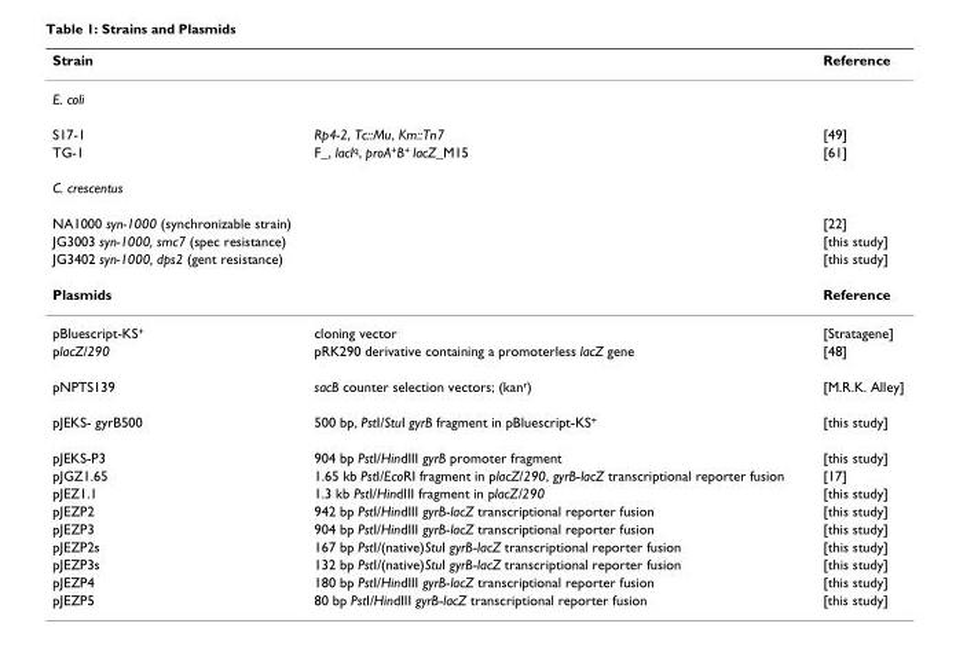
<table><thead><tr><td>Strain</td><td></td><td>Reference</td></tr></thead><tbody><tr><td colspan="3">E. coli</td></tr><tr><td>S17-1</td><td>Rp4-2, Tc::Mu, Km::Tn7</td><td>[49]</td></tr><tr><td>TG-1</td><td>F_, lacIq, proA+B+ lacZ_M15</td><td>[61]</td></tr><tr><td colspan="3">C. crescentus</td></tr><tr><td>NA1000 syn-1000 (synchronizable strain)</td><td></td><td>[22]</td></tr><tr><td>JG3003 syn-1000, smc7 (spec resistance)</td><td></td><td>[this study]</td></tr><tr><td>JG3402 syn-1000, dps2 (gent resistance)</td><td></td><td>[this study]</td></tr><tr><td>Plasmids</td><td></td><td>Reference</td></tr><tr><td>pBluescript-KS+</td><td>cloning vector</td><td>[Stratagene]</td></tr><tr><td>placZ/290</td><td>pRK290 derivative containing a promoterless lacZ gene</td><td>[48]</td></tr><tr><td>pNPTS139</td><td>sacB counter selection vectors; (kanr)</td><td>[M.R.K. Alley]</td></tr><tr><td>pJEKS- gyrB500</td><td>500 bp, PstI/StuI gyrB fragment in pBluescript-KS+</td><td>[this study]</td></tr><tr><td>pJEKS-P3</td><td>904 bp PstI/HindIII gyrB promoter fragment</td><td>[this study]</td></tr><tr><td>pJGZ1.65</td><td>1.65 kb PstI/EcoRI fragment in placZ/290, gyrB-lacZ transcriptional reporter fusion</td><td>[17]</td></tr><tr><td>pJEZ1.1</td><td>1.3 kb PstI/HindIII fragment in placZ/290</td><td>[this study]</td></tr><tr><td>pJEZP2</td><td>942 bp PstI/HindIII gyrB-lacZ transcriptional reporter fusion</td><td>[this study]</td></tr><tr><td>pJEZP3</td><td>904 bp PstI/HindIII gyrB-lacZ transcriptional reporter fusion</td><td>[this study]</td></tr><tr><td>pJEZP2s</td><td>167 bp PstI/(native)StuI gyrB-lacZ transcriptional reporter fusion</td><td>[this study]</td></tr><tr><td>pJEZP3s</td><td>132 bp PstI/(native)StuI gyrB-lacZ transcriptional reporter fusion</td><td>[this study]</td></tr><tr><td>pJEZP4</td><td>180 bp PstI/HindIII gyrB-lacZ transcriptional reporter fusion</td><td>[this study]</td></tr><tr><td>pJEZP5</td><td>80 bp PstI/HindIII gyrB-lacZ transcriptional reporter fusion</td><td>[this study]</td></tr></tbody></table>